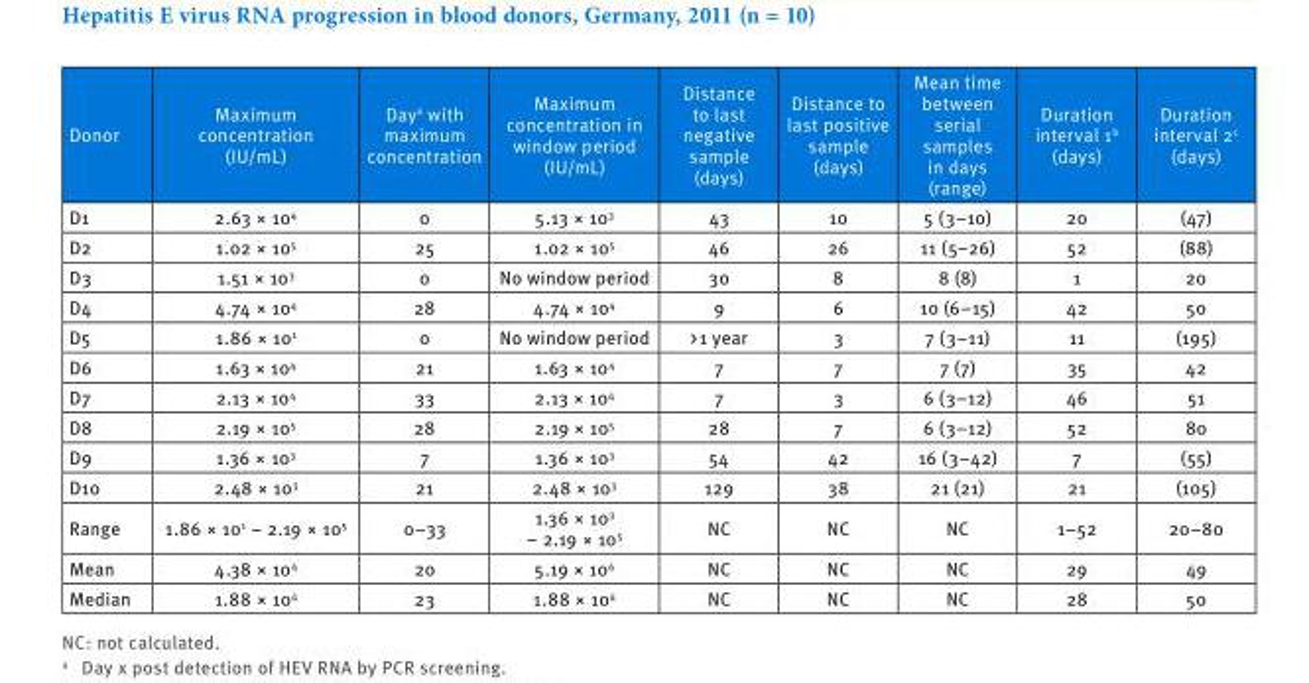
<table><thead><tr><td>Donor</td><td>Maximum concentration (IU/mL)</td><td>Day<sup>a</sup> with maximum concentration</td><td>Maximum concentration in window period (IU/mL)</td><td>Distance to last negative sample (days)</td><td>Distance to last positive sample (days)</td><td>Mean time between serial samples in days (range)</td><td>Duration interval 1<sup>b</sup> (days)</td><td>Duration interval 2<sup>c</sup> (days)</td></tr></thead><tbody><tr><td>D1</td><td>2.63 × 10<sup>4</sup></td><td>0</td><td>5.13 × 10<sup>3</sup></td><td>43</td><td>10</td><td>5 (3–10)</td><td>20</td><td>(47)</td></tr><tr><td>D2</td><td>1.02 × 10<sup>5</sup></td><td>25</td><td>1.02 × 10<sup>5</sup></td><td>46</td><td>26</td><td>11 (5–26)</td><td>52</td><td>(88)</td></tr><tr><td>D3</td><td>1.51 × 10<sup>3</sup></td><td>0</td><td>No window period</td><td>30</td><td>8</td><td>8 (8)</td><td>1</td><td>20</td></tr><tr><td>D4</td><td>4.74 × 10<sup>4</sup></td><td>28</td><td>4.74 × 10<sup>4</sup></td><td>9</td><td>6</td><td>10 (6–15)</td><td>42</td><td>50</td></tr><tr><td>D5</td><td>1.86 × 10<sup>1</sup></td><td>0</td><td>No window period</td><td>&gt; 1 year</td><td>3</td><td>7 (3–11)</td><td>11</td><td>(195)</td></tr><tr><td>D6</td><td>1.63 × 10<sup>4</sup></td><td>21</td><td>1.63 × 10<sup>4</sup></td><td>7</td><td>7</td><td>7 (7)</td><td>35</td><td>42</td></tr><tr><td>D7</td><td>2.13 × 10<sup>4</sup></td><td>33</td><td>2.13 × 10<sup>4</sup></td><td>7</td><td>3</td><td>6 (3–12)</td><td>46</td><td>51</td></tr><tr><td>D8</td><td>2.19 × 10<sup>5</sup></td><td>28</td><td>2.19 × 10<sup>5</sup></td><td>28</td><td>7</td><td>6 (3–12)</td><td>52</td><td>80</td></tr><tr><td>D9</td><td>1.36 × 10<sup>3</sup></td><td>7</td><td>1.36 × 10<sup>3</sup></td><td>54</td><td>42</td><td>16 (3–42)</td><td>7</td><td>(55)</td></tr><tr><td>D10</td><td>2.48 × 10<sup>3</sup></td><td>21</td><td>2.48 × 10<sup>3</sup></td><td>129</td><td>38</td><td>21 (21)</td><td>21</td><td>(105)</td></tr><tr><td>Range</td><td>1.86 × 10<sup>1</sup> – 2.19 × 10<sup>5</sup></td><td>0–33</td><td>1.36 × 10<sup>3</sup> – 2.19 × 10<sup>5</sup></td><td>NC</td><td>NC</td><td>NC</td><td>1–52</td><td>20–80</td></tr><tr><td>Mean</td><td>4.38 × 10<sup>4</sup></td><td>20</td><td>5.19 × 10<sup>4</sup></td><td>NC</td><td>NC</td><td>NC</td><td>29</td><td>49</td></tr><tr><td>Median</td><td>1.88 × 10<sup>4</sup></td><td>23</td><td>1.88 × 10<sup>4</sup></td><td>NC</td><td>NC</td><td>NC</td><td>28</td><td>50</td></tr></tbody></table>